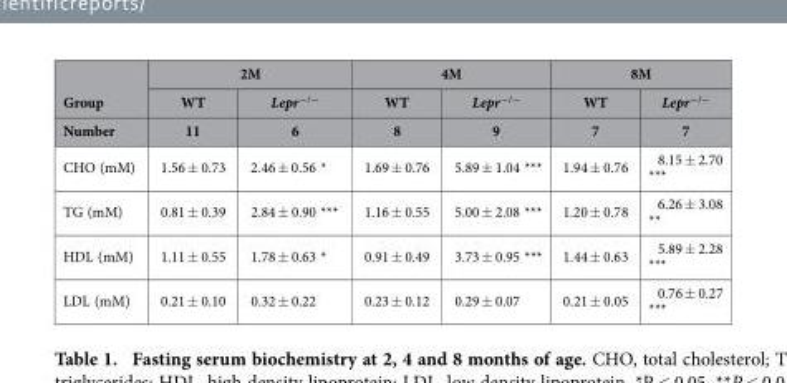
<table><thead><tr><td rowspan="3">Group Number</td><td colspan="2">2M</td><td colspan="2">4M</td><td colspan="2">8M</td></tr><tr><td rowspan="2">WT 11</td><td rowspan="2">Lepr<sup>−/−</sup> 6</td><td rowspan="2">WT 8</td><td rowspan="2">Lepr<sup>−/−</sup> 9</td><td rowspan="2">WT 7</td><td rowspan="2">Lepr<sup>−/−</sup> 7</td></tr><tr></tr></thead><tbody><tr><td>CHO (mM)</td><td>1.56 ± 0.73</td><td>2.46 ± 0.56 *</td><td>1.69 ± 0.76</td><td>5.89 ± 1.04 ***</td><td>1.94 ± 0.76</td><td>8.15 ± 2.70 ***</td></tr><tr><td>TG (mM)</td><td>0.81 ± 0.39</td><td>2.84 ± 0.90 ***</td><td>1.16 ± 0.55</td><td>5.00 ± 2.08 ***</td><td>1.20 ± 0.78</td><td>6.26 ± 3.08 **</td></tr><tr><td>HDL (mM)</td><td>1.11 ± 0.55</td><td>1.78 ± 0.63 *</td><td>0.91 ± 0.49</td><td>3.73 ± 0.95 ***</td><td>1.44 ± 0.63</td><td>5.89 ± 2.28 ***</td></tr><tr><td>LDL (mM)</td><td>0.21 ± 0.10</td><td>0.32 ± 0.22</td><td>0.23 ± 0.12</td><td>0.29 ± 0.07</td><td>0.21 ± 0.05</td><td>0.76 ± 0.27 ***</td></tr></tbody></table>